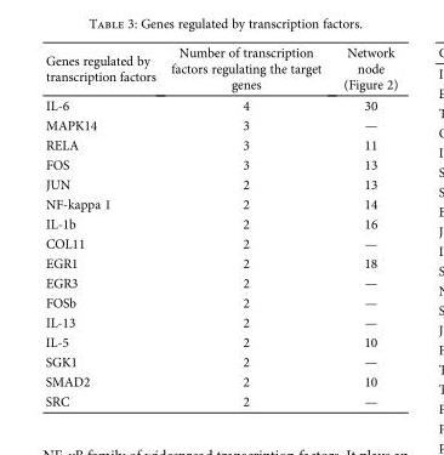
<table><thead><tr><td>Genes regulated by transcription factors</td><td>Number of transcription factors regulating the target genes</td><td>Network node (Figure 2)</td></tr></thead><tbody><tr><td>IL-6</td><td>4</td><td>30</td></tr><tr><td>MAPK14</td><td>3</td><td>—</td></tr><tr><td>RELA</td><td>3</td><td>11</td></tr><tr><td>FOS</td><td>3</td><td>13</td></tr><tr><td>JUN</td><td>2</td><td>13</td></tr><tr><td>NF-kappa 1</td><td>2</td><td>14</td></tr><tr><td>IL-1b</td><td>2</td><td>16</td></tr><tr><td>COL11</td><td>2</td><td>—</td></tr><tr><td>EGR1</td><td>2</td><td>18</td></tr><tr><td>EGR3</td><td>2</td><td>—</td></tr><tr><td>FOSb</td><td>2</td><td>—</td></tr><tr><td>IL-13</td><td>2</td><td>—</td></tr><tr><td>IL-5</td><td>2</td><td>10</td></tr><tr><td>SGK1</td><td>2</td><td>—</td></tr><tr><td>SMAD2</td><td>2</td><td>10</td></tr><tr><td>SRC</td><td>2</td><td>—</td></tr></tbody></table>